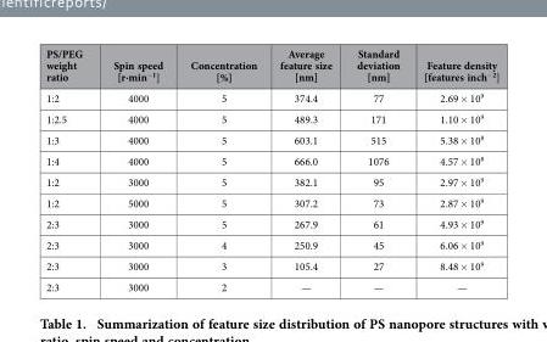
<table><thead><tr><td>PS/PEG weight ratio</td><td>Spin speed [r∙min<sup>−1</sup>]</td><td>Concentration [%]</td><td>Average feature size [nm]</td><td>Standard deviation [nm]</td><td>Feature density [features inch<sup>−2</sup>]</td></tr></thead><tbody><tr><td>1:2</td><td>4000</td><td>5</td><td>374.4</td><td>77</td><td>2.69 × 10<sup>9</sup></td></tr><tr><td>1:2.5</td><td>4000</td><td>5</td><td>489.3</td><td>171</td><td>1.10 × 10<sup>9</sup></td></tr><tr><td>1:3</td><td>4000</td><td>5</td><td>603.1</td><td>515</td><td>5.38 × 10<sup>8</sup></td></tr><tr><td>1:4</td><td>4000</td><td>5</td><td>666.0</td><td>1076</td><td>4.57 × 10<sup>8</sup></td></tr><tr><td>1:2</td><td>3000</td><td>5</td><td>382.1</td><td>95</td><td>2.97 × 10<sup>9</sup></td></tr><tr><td>1:2</td><td>5000</td><td>5</td><td>307.2</td><td>73</td><td>2.87 × 10<sup>9</sup></td></tr><tr><td>2:3</td><td>3000</td><td>5</td><td>267.9</td><td>61</td><td>4.93 × 10<sup>9</sup></td></tr><tr><td>2:3</td><td>3000</td><td>4</td><td>250.9</td><td>45</td><td>6.06 × 10<sup>9</sup></td></tr><tr><td>2:3</td><td>3000</td><td>3</td><td>105.4</td><td>27</td><td>8.48 × 10<sup>9</sup></td></tr><tr><td>2:3</td><td>3000</td><td>2</td><td>—</td><td>—</td><td>—</td></tr></tbody></table>